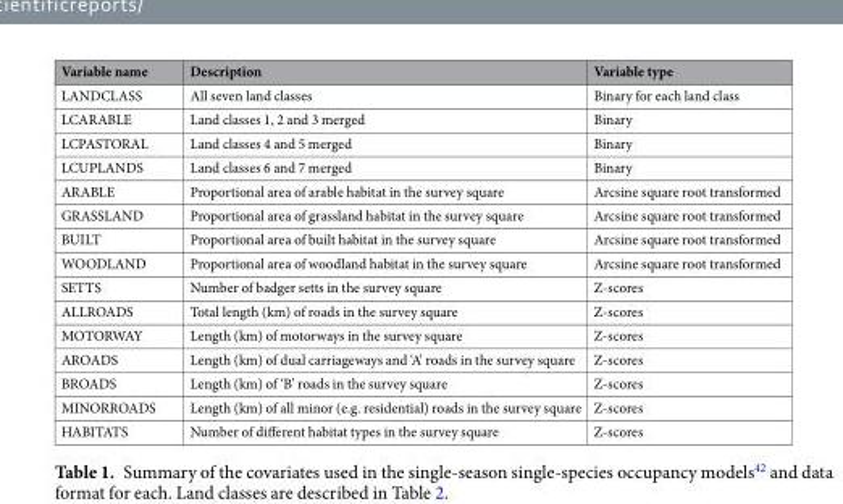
<table><thead><tr><td>Variable name</td><td>Description</td><td>Variable type</td></tr></thead><tbody><tr><td>LANDCLASS</td><td>All seven land classes</td><td>Binary for each land class</td></tr><tr><td>LCARABLE</td><td>Land classes 1, 2 and 3 merged</td><td>Binary</td></tr><tr><td>LCPASTORAL</td><td>Land classes 4 and 5 merged</td><td>Binary</td></tr><tr><td>LCUPLANDS</td><td>Land classes 6 and 7 merged</td><td>Binary</td></tr><tr><td>ARABLE</td><td>Proportional area of arable habitat in the survey square</td><td>Arcsine square root transformed</td></tr><tr><td>GRASSLAND</td><td>Proportional area of grassland habitat in the survey square</td><td>Arcsine square root transformed</td></tr><tr><td>BUILT</td><td>Proportional area of built habitat in the survey square</td><td>Arcsine square root transformed</td></tr><tr><td>WOODLAND</td><td>Proportional area of woodland habitat in the survey square</td><td>Arcsine square root transformed</td></tr><tr><td>SETTS</td><td>Number of badger setts in the survey square</td><td>Z-scores</td></tr><tr><td>ALLROADS</td><td>Total length (km) of roads in the survey square</td><td>Z-scores</td></tr><tr><td>MOTORWAY</td><td>Length (km) of motorways in the survey square</td><td>Z-scores</td></tr><tr><td>AROADS</td><td>Length (km) of dual carriageways and ‘A’ roads in the survey square</td><td>Z-scores</td></tr><tr><td>BROADS</td><td>Length (km) of ‘B’ roads in the survey square</td><td>Z-scores</td></tr><tr><td>MINORROADS</td><td>Length (km) of all minor (e.g. residential) roads in the survey square</td><td>Z-scores</td></tr><tr><td>HABITATS</td><td>Number of different habitat types in the survey square</td><td>Z-scores</td></tr></tbody></table>